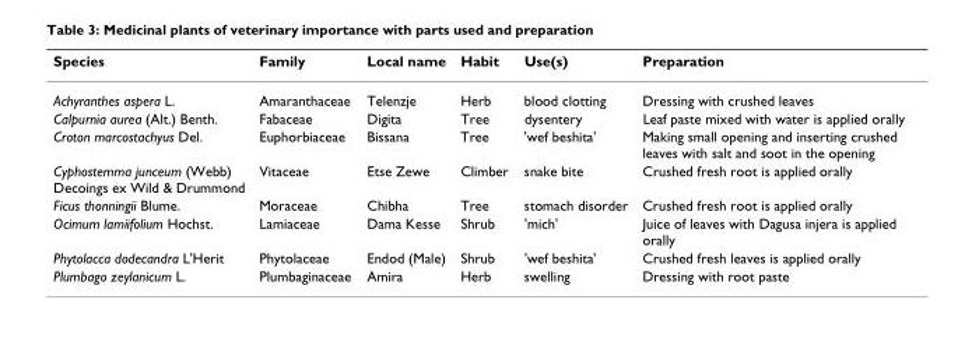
<table><thead><tr><td>Species</td><td>Family</td><td>Local name</td><td>Habit</td><td>Use(s)</td><td>Preparation</td></tr></thead><tbody><tr><td>Achyranthes aspera L.</td><td>Amaranthaceae</td><td>Telenzje</td><td>Herb</td><td>blood clotting</td><td>Dressing with crushed leaves</td></tr><tr><td>Calpurnia aurea (Alt.) Benth.</td><td>Fabaceae</td><td>Digita</td><td>Tree</td><td>dysentery</td><td>Leaf paste mixed with water is applied orally</td></tr><tr><td>Croton marcostachyus Del.</td><td>Euphorbiaceae</td><td>Bissana</td><td>Tree</td><td>&#x27;wef beshita&#x27;</td><td>Making small opening and inserting crushed leaves with salt and soot in the opening</td></tr><tr><td>Cyphostemma junceum (Webb) Decoings ex Wild &amp; Drummond</td><td>Vitaceae</td><td>Etse Zewe</td><td>Climber</td><td>snake bite</td><td>Crushed fresh root is applied orally</td></tr><tr><td>Ficus thonningii Blume.</td><td>Moraceae</td><td>Chibha</td><td>Tree</td><td>stomach disorder</td><td>Crushed fresh root is applied orally</td></tr><tr><td>Ocimum lamiifolium Hochst.</td><td>Lamiaceae</td><td>Dama Kesse</td><td>Shrub</td><td>&#x27;mich&#x27;</td><td>Juice of leaves with Dagusa injera is applied orally</td></tr><tr><td>Phytolacca dodecandra L&#x27;Herit</td><td>Phytolaceae</td><td>Endod (Male)</td><td>Shrub</td><td>&#x27;wef beshita&#x27;</td><td>Crushed fresh leaves is applied orally</td></tr><tr><td>Plumbago zeylanicum L.</td><td>Plumbaginaceae</td><td>Amira</td><td>Herb</td><td>swelling</td><td>Dressing with root paste</td></tr></tbody></table>